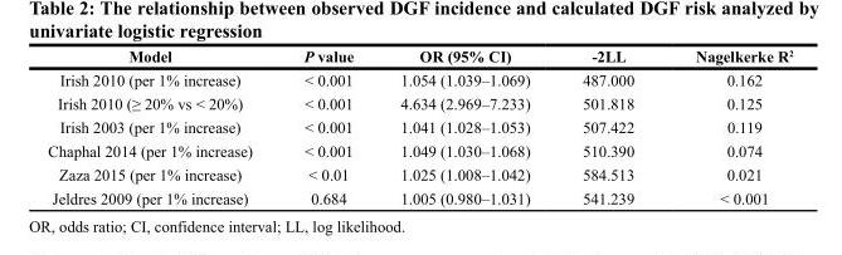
<table><thead><tr><td>Model</td><td>P value</td><td>OR (95% CI)</td><td>-2LL</td><td>Nagelkerke R<sup>2</sup></td></tr></thead><tbody><tr><td>Irish 2010 (per 1% increase)</td><td>&lt; 0.001</td><td>1.054 (1.039–1.069)</td><td>487.000</td><td>0.162</td></tr><tr><td>Irish 2010 (≥ 20% vs &lt; 20%)</td><td>&lt; 0.001</td><td>4.634 (2.969–7.233)</td><td>501.818</td><td>0.125</td></tr><tr><td>Irish 2003 (per 1% increase)</td><td>&lt; 0.001</td><td>1.041 (1.028–1.053)</td><td>507.422</td><td>0.119</td></tr><tr><td>Chaphal 2014 (per 1% increase)</td><td>&lt; 0.001</td><td>1.049 (1.030–1.068)</td><td>510.390</td><td>0.074</td></tr><tr><td>Zaza 2015 (per 1% increase)</td><td>&lt; 0.01</td><td>1.025 (1.008–1.042)</td><td>584.513</td><td>0.021</td></tr><tr><td>Jeldres 2009 (per 1% increase)</td><td>0.684</td><td>1.005 (0.980–1.031)</td><td>541.239</td><td>&lt; 0.001</td></tr></tbody></table>